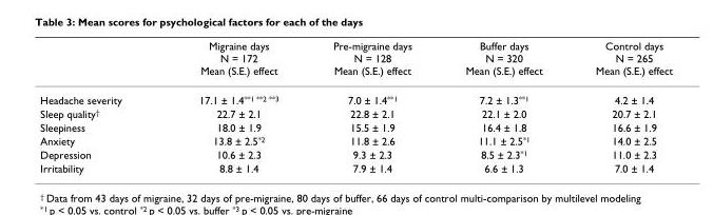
<table><thead><tr><td></td><td>Migraine days N = 172 Mean (S.E.) effect</td><td>Pre-migraine days N = 128 Mean (S.E.) effect</td><td>Buffer days N = 320 Mean (S.E.) effect</td><td>Control days N = 265 Mean (S.E.) effect</td></tr></thead><tbody><tr><td>Headache severity</td><td>17.1 ± 1.4<sup>**1 **2 **3</sup></td><td>7.0 ± 1.4<sup>**1</sup></td><td>7.2 ± 1.3<sup>**1</sup></td><td>4.2 ± 1.4</td></tr><tr><td>Sleep quality<sup>†</sup></td><td>22.7 ± 2.1</td><td>22.8 ± 2.1</td><td>22.1 ± 2.0</td><td>20.7 ± 2.1</td></tr><tr><td>Sleepiness</td><td>18.0 ± 1.9</td><td>15.5 ± 1.9</td><td>16.4 ± 1.8</td><td>16.6 ± 1.9</td></tr><tr><td>Anxiety</td><td>13.8 ± 2.5<sup>*2</sup></td><td>11.8 ± 2.6</td><td>11.1 ± 2.5<sup>*1</sup></td><td>14.0 ± 2.5</td></tr><tr><td>Depression</td><td>10.6 ± 2.3</td><td>9.3 ± 2.3</td><td>8.5 ± 2.3<sup>*1</sup></td><td>11.0 ± 2.3</td></tr><tr><td>Irritability</td><td>8.8 ± 1.4</td><td>7.9 ± 1.4</td><td>6.6 ± 1.3</td><td>7.0 ± 1.4</td></tr></tbody></table>